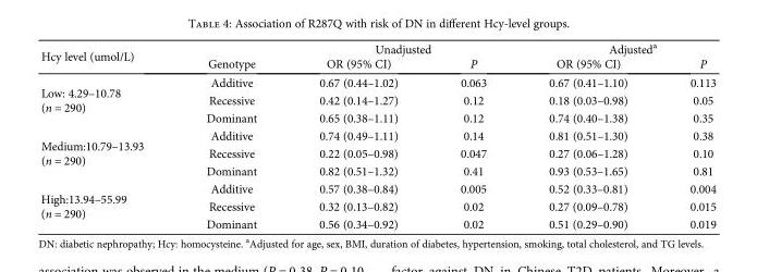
<table><thead><tr><td rowspan="2">Hcy level (umol/L)</td><td rowspan="2">Genotype</td><td colspan="2">Unadjusted</td><td colspan="2">Adjusted<sup>a</sup></td></tr><tr><td>OR (95% CI)</td><td>P</td><td>OR (95% CI)</td><td>P</td></tr></thead><tbody><tr><td rowspan="3">Low: 4.29–10.78 (n = 290)</td><td>Additive</td><td>0.67 (0.44–1.02)</td><td>0.063</td><td>0.67 (0.41–1.10)</td><td>0.113</td></tr><tr><td>Recessive</td><td>0.42 (0.14–1.27)</td><td>0.12</td><td>0.18 (0.03–0.98)</td><td>0.05</td></tr><tr><td>Dominant</td><td>0.65 (0.38–1.11)</td><td>0.12</td><td>0.74 (0.40–1.38)</td><td>0.35</td></tr><tr><td rowspan="3">Medium:10.79–13.93 (n = 290)</td><td>Additive</td><td>0.74 (0.49–1.11)</td><td>0.14</td><td>0.81 (0.51–1.30)</td><td>0.38</td></tr><tr><td>Recessive</td><td>0.22 (0.05–0.98)</td><td>0.047</td><td>0.27 (0.06–1.28)</td><td>0.10</td></tr><tr><td>Dominant</td><td>0.82 (0.51–1.32)</td><td>0.41</td><td>0.93 (0.53–1.65)</td><td>0.81</td></tr><tr><td rowspan="3">High:13.94–55.99 (n = 290)</td><td>Additive</td><td>0.57 (0.38–0.84)</td><td>0.005</td><td>0.52 (0.33–0.81)</td><td>0.004</td></tr><tr><td>Recessive</td><td>0.32 (0.13–0.82)</td><td>0.02</td><td>0.27 (0.09–0.78)</td><td>0.015</td></tr><tr><td>Dominant</td><td>0.56 (0.34–0.92)</td><td>0.02</td><td>0.51 (0.29–0.90)</td><td>0.019</td></tr></tbody></table>